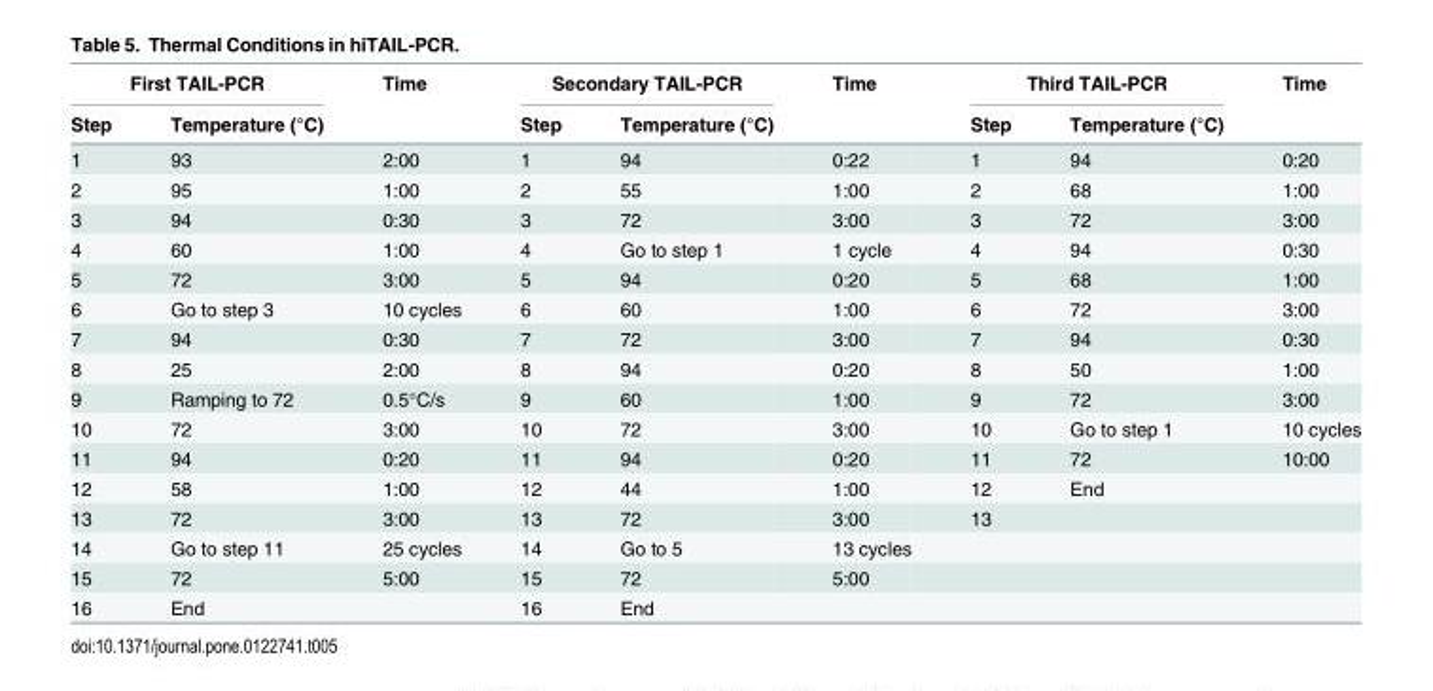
<table><thead><tr><td colspan="2">First TAIL-PCR</td><td rowspan="2">Time</td><td colspan="2">Secondary TAIL-PCR</td><td rowspan="2">Time</td><td colspan="2">Third TAIL-PCR</td><td rowspan="2">Time</td></tr><tr><td>Step</td><td>Temperature (°C)</td><td>Step</td><td>Temperature (°C)</td><td>Step</td><td>Temperature (°C)</td></tr></thead><tbody><tr><td>1</td><td>93</td><td>2:00</td><td>1</td><td>94</td><td>0:22</td><td>1</td><td>94</td><td>0:20</td></tr><tr><td>2</td><td>95</td><td>1:00</td><td>2</td><td>55</td><td>1:00</td><td>2</td><td>68</td><td>1:00</td></tr><tr><td>3</td><td>94</td><td>0:30</td><td>3</td><td>72</td><td>3:00</td><td>3</td><td>72</td><td>3:00</td></tr><tr><td>4</td><td>60</td><td>1:00</td><td>4</td><td>Go to step 1</td><td>1 cycle</td><td>4</td><td>94</td><td>0:30</td></tr><tr><td>5</td><td>72</td><td>3:00</td><td>5</td><td>94</td><td>0:20</td><td>5</td><td>68</td><td>1:00</td></tr><tr><td>6</td><td>Go to step 3</td><td>10 cycles</td><td>6</td><td>60</td><td>1:00</td><td>6</td><td>72</td><td>3:00</td></tr><tr><td>7</td><td>94</td><td>0:30</td><td>7</td><td>72</td><td>3:00</td><td>7</td><td>94</td><td>0:30</td></tr><tr><td>8</td><td>25</td><td>2:00</td><td>8</td><td>94</td><td>0:20</td><td>8</td><td>50</td><td>1:00</td></tr><tr><td>9</td><td>Ramping to 72</td><td>0.5°C/s</td><td>9</td><td>60</td><td>1:00</td><td>9</td><td>72</td><td>3:00</td></tr><tr><td>10</td><td>72</td><td>3:00</td><td>10</td><td>72</td><td>3:00</td><td>10</td><td>Go to step 1</td><td>10 cycles</td></tr><tr><td>11</td><td>94</td><td>0:20</td><td>11</td><td>94</td><td>0:20</td><td>11</td><td>72</td><td>10:00</td></tr><tr><td>12</td><td>58</td><td>1:00</td><td>12</td><td>44</td><td>1:00</td><td>12</td><td>End</td><td></td></tr><tr><td>13</td><td>72</td><td>3:00</td><td>13</td><td>72</td><td>3:00</td><td>13</td><td></td><td></td></tr><tr><td>14</td><td>Go to step 11</td><td>25 cycles</td><td>14</td><td>Go to 5</td><td>13 cycles</td><td></td><td></td><td></td></tr><tr><td>15</td><td>72</td><td>5:00</td><td>15</td><td>72</td><td>5:00</td><td></td><td></td><td></td></tr><tr><td>16</td><td>End</td><td></td><td>16</td><td>End</td><td></td><td></td><td></td><td></td></tr></tbody></table>